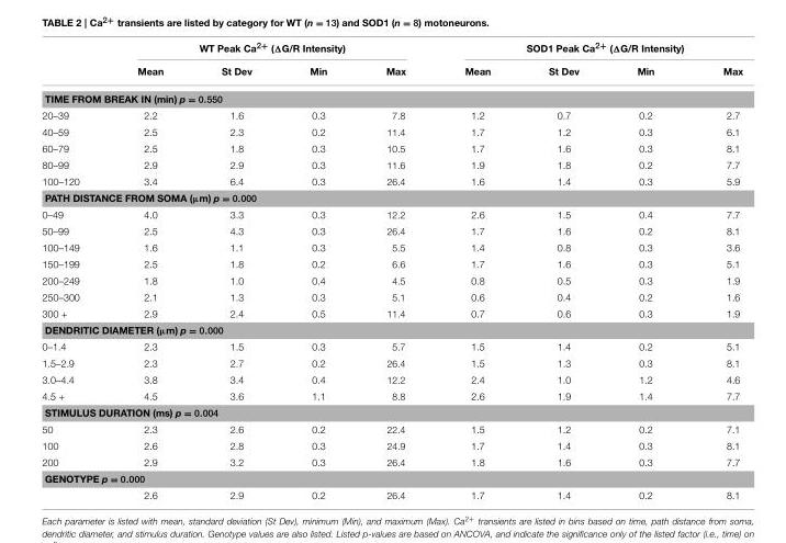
<table><thead><tr><td rowspan="2"></td><td colspan="4">WT Peak Ca<sup>2+</sup> (ΔG/R Intensity)</td><td colspan="4">SOD1 Peak Ca<sup>2+</sup> (ΔG/R Intensity)</td></tr><tr><td>Mean</td><td>St Dev</td><td>Min</td><td>Max</td><td>Mean</td><td>St Dev</td><td>Min</td><td>Max</td></tr></thead><tbody><tr><td colspan="9">TIME FROM BREAK IN (min) p = 0.550</td></tr><tr><td>20–39</td><td>2.2</td><td>1.6</td><td>0.3</td><td>7.8</td><td>1.2</td><td>0.7</td><td>0.2</td><td>2.7</td></tr><tr><td>40–59</td><td>2.5</td><td>2.3</td><td>0.2</td><td>11.4</td><td>1.7</td><td>1.2</td><td>0.3</td><td>6.1</td></tr><tr><td>60–79</td><td>2.5</td><td>1.8</td><td>0.3</td><td>10.5</td><td>1.7</td><td>1.6</td><td>0.3</td><td>8.1</td></tr><tr><td>80–99</td><td>2.9</td><td>2.9</td><td>0.3</td><td>11.6</td><td>1.9</td><td>1.8</td><td>0.2</td><td>7.7</td></tr><tr><td>100–120</td><td>3.4</td><td>6.4</td><td>0.3</td><td>26.4</td><td>1.6</td><td>1.4</td><td>0.3</td><td>5.9</td></tr><tr><td colspan="9">PATH DISTANCE FROM SOMA (µm) p = 0.000</td></tr><tr><td>0–49</td><td>4.0</td><td>3.3</td><td>0.3</td><td>12.2</td><td>2.6</td><td>1.5</td><td>0.4</td><td>7.7</td></tr><tr><td>50–99</td><td>2.5</td><td>4.3</td><td>0.3</td><td>26.4</td><td>1.7</td><td>1.6</td><td>0.2</td><td>8.1</td></tr><tr><td>100–149</td><td>1.6</td><td>1.1</td><td>0.3</td><td>5.5</td><td>1.4</td><td>0.8</td><td>0.3</td><td>3.6</td></tr><tr><td>150–199</td><td>2.5</td><td>1.8</td><td>0.2</td><td>6.6</td><td>1.7</td><td>1.6</td><td>0.3</td><td>5.1</td></tr><tr><td>200–249</td><td>1.8</td><td>1.0</td><td>0.4</td><td>4.5</td><td>0.8</td><td>0.5</td><td>0.3</td><td>1.9</td></tr><tr><td>250–300</td><td>2.1</td><td>1.3</td><td>0.3</td><td>5.1</td><td>0.6</td><td>0.4</td><td>0.2</td><td>1.6</td></tr><tr><td>300 +</td><td>2.9</td><td>2.4</td><td>0.5</td><td>11.4</td><td>0.7</td><td>0.6</td><td>0.3</td><td>1.9</td></tr><tr><td colspan="9">DENDRITIC DIAMETER (µm) p = 0.000</td></tr><tr><td>0–1.4</td><td>2.3</td><td>1.5</td><td>0.3</td><td>5.7</td><td>1.5</td><td>1.4</td><td>0.2</td><td>5.1</td></tr><tr><td>1.5–2.9</td><td>2.3</td><td>2.7</td><td>0.2</td><td>26.4</td><td>1.5</td><td>1.3</td><td>0.3</td><td>8.1</td></tr><tr><td>3.0–4.4</td><td>3.8</td><td>3.4</td><td>0.4</td><td>12.2</td><td>2.4</td><td>1.0</td><td>1.2</td><td>4.6</td></tr><tr><td>4.5 +</td><td>4.5</td><td>3.6</td><td>1.1</td><td>8.8</td><td>2.6</td><td>1.9</td><td>1.4</td><td>7.7</td></tr><tr><td colspan="9">STIMULUS DURATION (ms) p = 0.004</td></tr><tr><td>50</td><td>2.3</td><td>2.6</td><td>0.2</td><td>22.4</td><td>1.5</td><td>1.2</td><td>0.2</td><td>7.1</td></tr><tr><td>100</td><td>2.6</td><td>2.8</td><td>0.3</td><td>24.9</td><td>1.7</td><td>1.4</td><td>0.3</td><td>8.1</td></tr><tr><td>200</td><td>2.9</td><td>3.2</td><td>0.3</td><td>26.4</td><td>1.8</td><td>1.6</td><td>0.3</td><td>7.7</td></tr><tr><td colspan="9">GENOTYPE p = 0.000</td></tr><tr><td></td><td>2.6</td><td>2.9</td><td>0.2</td><td>26.4</td><td>1.7</td><td>1.4</td><td>0.2</td><td>8.1</td></tr></tbody></table>